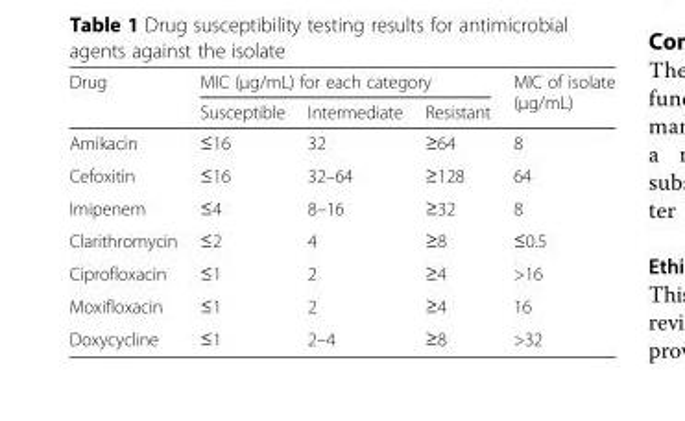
<table><thead><tr><td rowspan="2">Drug</td><td colspan="3">MIC (μg/mL) for each category</td><td rowspan="2">MIC of isolate (μg/mL)</td></tr><tr><td>Susceptible</td><td>Intermediate</td><td>Resistant</td></tr></thead><tbody><tr><td>Amikacin</td><td>≤16</td><td>32</td><td>≥64</td><td>8</td></tr><tr><td>Cefoxitin</td><td>≤16</td><td>32–64</td><td>≥128</td><td>64</td></tr><tr><td>Imipenem</td><td>≤4</td><td>8–16</td><td>≥32</td><td>8</td></tr><tr><td>Clarithromycin</td><td>≤2</td><td>4</td><td>≥8</td><td>≤0.5</td></tr><tr><td>Ciprofloxacin</td><td>≤1</td><td>2</td><td>≥4</td><td>&gt;16</td></tr><tr><td>Moxifloxacin</td><td>≤1</td><td>2</td><td>≥4</td><td>16</td></tr><tr><td>Doxycycline</td><td>≤1</td><td>2–4</td><td>≥8</td><td>&gt;32</td></tr></tbody></table>